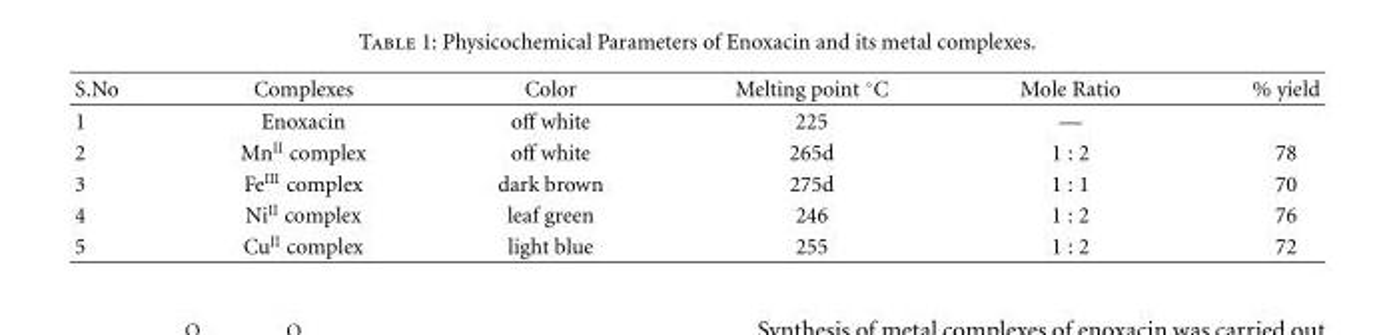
<table><thead><tr><td>S.No</td><td>Complexes</td><td>Color</td><td>Melting point ◦C</td><td>Mole Ratio</td><td>% yield</td></tr></thead><tbody><tr><td>1</td><td>Enoxacin</td><td>off white</td><td>225</td><td>—</td><td></td></tr><tr><td>2</td><td>Mn<sup>II</sup> complex</td><td>off white</td><td>265d</td><td>1 : 2</td><td>78</td></tr><tr><td>3</td><td>Fe<sup>III</sup> complex</td><td>dark brown</td><td>275d</td><td>1 : 1</td><td>70</td></tr><tr><td>4</td><td>Ni<sup>II</sup> complex</td><td>leaf green</td><td>246</td><td>1 : 2</td><td>76</td></tr><tr><td>5</td><td>Cu<sup>II</sup> complex</td><td>light blue</td><td>255</td><td>1 : 2</td><td>72</td></tr></tbody></table>